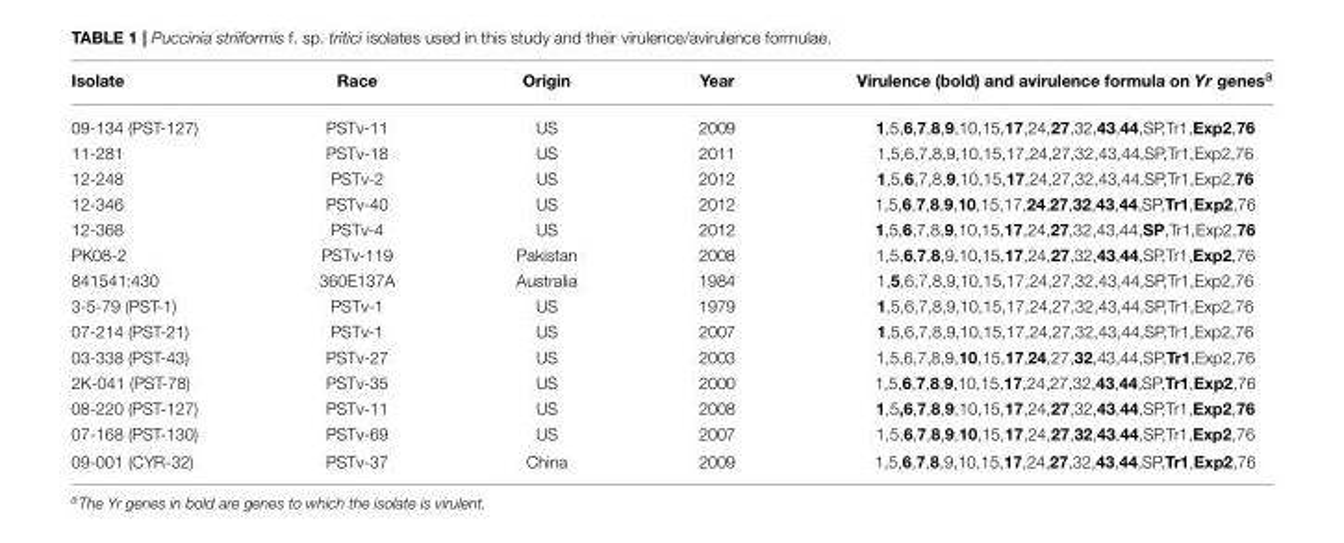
<table><thead><tr><td>Isolate</td><td>Race</td><td>Origin</td><td>Year</td><td>Virulence (bold) and avirulence formula on Yr genes<sup>a</sup></td></tr></thead><tbody><tr><td>09-134 (PST-127)</td><td>PSTv-11</td><td>US</td><td>2009</td><td>1,5,6,7,8,9,10,15,17,24,27,32,43,44,SP,Tr1,Exp2,76</td></tr><tr><td>11-281</td><td>PSTv-18</td><td>US</td><td>2011</td><td>1,5,6,7,8,9,10,15,17,24,27,32,43,44,SP,Tr1,Exp2,76</td></tr><tr><td>12-248</td><td>PSTv-2</td><td>US</td><td>2012</td><td>1,5,6,7,8,9,10,15,17,24,27,32,43,44,SP,Tr1,Exp2,76</td></tr><tr><td>12-346</td><td>PSTv-40</td><td>US</td><td>2012</td><td>1,5,6,7,8,9,10,15,17,24,27,32,43,44,SP,Tr1,Exp2,76</td></tr><tr><td>12-368</td><td>PSTv-4</td><td>US</td><td>2012</td><td>1,5,6,7,8,9,10,15,17,24,27,32,43,44,SP,Tr1,Exp2,76</td></tr><tr><td>PK08-2</td><td>PSTv-119</td><td>Pakistan</td><td>2008</td><td>1,5,6,7,8,9,10,15,17,24,27,32,43,44,SP,Tr1,Exp2,76</td></tr><tr><td>841541:430</td><td>360E137A</td><td>Australia</td><td>1984</td><td>1,5,6,7,8,9,10,15,17,24,27,32,43,44,SP,Tr1,Exp2,76</td></tr><tr><td>3-5-79 (PST-1)</td><td>PSTv-1</td><td>US</td><td>1979</td><td>1,5,6,7,8,9,10,15,17,24,27,32,43,44,SP,Tr1,Exp2,76</td></tr><tr><td>07-214 (PST-21)</td><td>PSTv-1</td><td>US</td><td>2007</td><td>1,5,6,7,8,9,10,15,17,24,27,32,43,44,SP,Tr1,Exp2,76</td></tr><tr><td>03-338 (PST-43)</td><td>PSTv-27</td><td>US</td><td>2003</td><td>1,5,6,7,8,9,10,15,17,24,27,32,43,44,SP,Tr1,Exp2,76</td></tr><tr><td>2K-041 (PST-78)</td><td>PSTv-35</td><td>US</td><td>2000</td><td>1,5,6,7,8,9,10,15,17,24,27,32,43,44,SP,Tr1,Exp2,76</td></tr><tr><td>08-220 (PST-127)</td><td>PSTv-11</td><td>US</td><td>2008</td><td>1,5,6,7,8,9,10,15,17,24,27,32,43,44,SP,Tr1,Exp2,76</td></tr><tr><td>07-168 (PST-130)</td><td>PSTv-69</td><td>US</td><td>2007</td><td>1,5,6,7,8,9,10,15,17,24,27,32,43,44,SP,Tr1,Exp2,76</td></tr><tr><td>09-001 (CYR-32)</td><td>PSTv-37</td><td>China</td><td>2009</td><td>1,5,6,7,8,9,10,15,17,24,27,32,43,44,SP,Tr1,Exp2,76</td></tr></tbody></table>